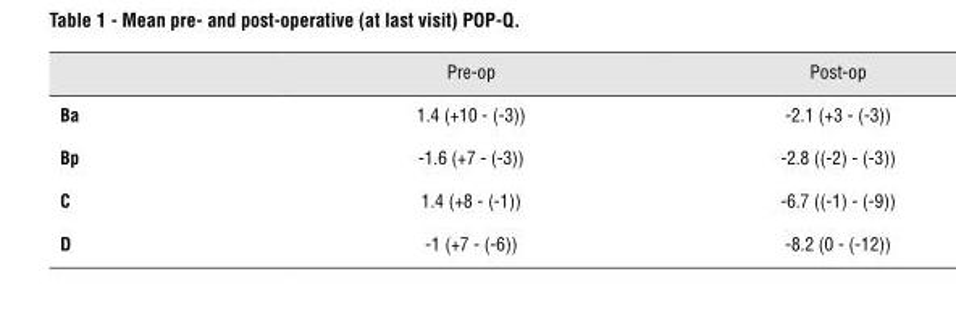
<table><thead><tr><td></td><td>Pre-op</td><td>Post-op</td></tr></thead><tbody><tr><td>ba</td><td>1.4 (+10 - (-3))</td><td>-2.1 (+3 - (-3))</td></tr><tr><td>bp</td><td>-1.6 (+7 - (-3))</td><td>-2.8 ((-2) - (-3))</td></tr><tr><td>C</td><td>1.4 (+8 - (-1))</td><td>-6.7 ((-1) - (-9))</td></tr><tr><td>D</td><td>-1 (+7 - (-6))</td><td>-8.2 (0 - (-12))</td></tr></tbody></table>